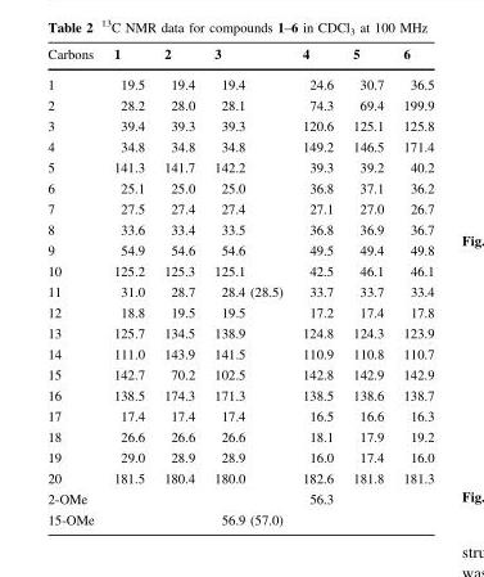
<table><thead><tr><td>Carbons</td><td>1</td><td>2</td><td>3</td><td>4</td><td>5</td><td>6</td></tr></thead><tbody><tr><td>1</td><td>19.5</td><td>19.4</td><td>19.4</td><td>24.6</td><td>30.7</td><td>36.5</td></tr><tr><td>2</td><td>28.2</td><td>28.0</td><td>28.1</td><td>74.3</td><td>69.4</td><td>199.9</td></tr><tr><td>3</td><td>39.4</td><td>39.3</td><td>39.3</td><td>120.6</td><td>125.1</td><td>125.8</td></tr><tr><td>4</td><td>34.8</td><td>34.8</td><td>34.8</td><td>149.2</td><td>146.5</td><td>171.4</td></tr><tr><td>5</td><td>141.3</td><td>141.7</td><td>142.2</td><td>39.3</td><td>39.2</td><td>40.2</td></tr><tr><td>6</td><td>25.1</td><td>25.0</td><td>25.0</td><td>36.8</td><td>37.1</td><td>36.2</td></tr><tr><td>7</td><td>27.5</td><td>27.4</td><td>27.4</td><td>27.1</td><td>27.0</td><td>26.7</td></tr><tr><td>8</td><td>33.6</td><td>33.4</td><td>33.5</td><td>36.8</td><td>36.9</td><td>36.7</td></tr><tr><td>9</td><td>54.9</td><td>54.6</td><td>54.6</td><td>49.5</td><td>49.4</td><td>49.8</td></tr><tr><td>10</td><td>125.2</td><td>125.3</td><td>125.1</td><td>42.5</td><td>46.1</td><td>46.1</td></tr><tr><td>11</td><td>31.0</td><td>28.7</td><td>28.4 (28.5)</td><td>33.7</td><td>33.7</td><td>33.4</td></tr><tr><td>12</td><td>18.8</td><td>19.5</td><td>19.5</td><td>17.2</td><td>17.4</td><td>17.8</td></tr><tr><td>13</td><td>125.7</td><td>134.5</td><td>138.9</td><td>124.8</td><td>124.3</td><td>123.9</td></tr><tr><td>14</td><td>111.0</td><td>143.9</td><td>141.5</td><td>110.9</td><td>110.8</td><td>110.7</td></tr><tr><td>15</td><td>142.7</td><td>70.2</td><td>102.5</td><td>142.8</td><td>142.9</td><td>142.9</td></tr><tr><td>16</td><td>138.5</td><td>174.3</td><td>171.3</td><td>138.5</td><td>138.6</td><td>138.7</td></tr><tr><td>17</td><td>17.4</td><td>17.4</td><td>17.4</td><td>16.5</td><td>16.6</td><td>16.3</td></tr><tr><td>18</td><td>26.6</td><td>26.6</td><td>26.6</td><td>18.1</td><td>17.9</td><td>19.2</td></tr><tr><td>19</td><td>29.0</td><td>28.9</td><td>28.9</td><td>16.0</td><td>17.4</td><td>16.0</td></tr><tr><td>20</td><td>181.5</td><td>180.4</td><td>180.0</td><td>182.6</td><td>181.8</td><td>181.3</td></tr><tr><td>2-OMe</td><td></td><td></td><td></td><td>56.3</td><td></td><td></td></tr><tr><td>15-OMe</td><td></td><td></td><td>56.9 (57.0)</td><td></td><td></td><td></td></tr></tbody></table>